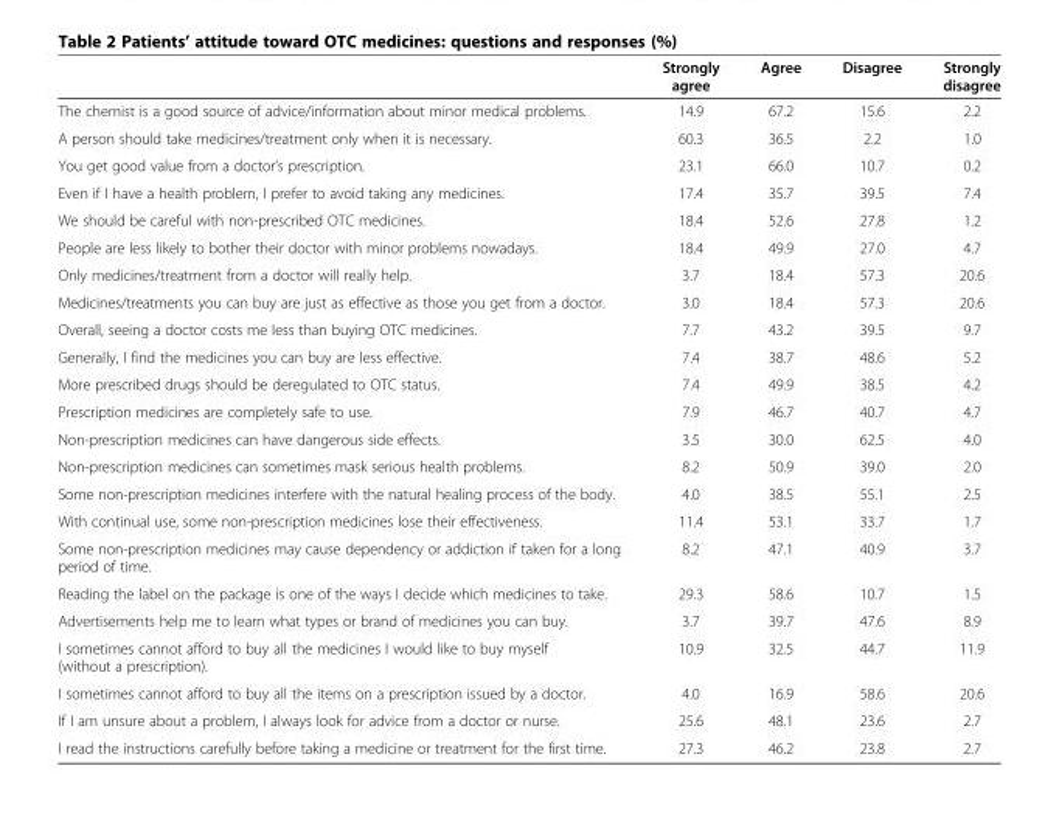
<table><thead><tr><td></td><td>Strongly agree</td><td>Agree</td><td>Disagree</td><td>Strongly disagree</td></tr></thead><tbody><tr><td>The chemist is a good source of advice/information about minor medical problems.</td><td>14.9</td><td>67.2</td><td>15.6</td><td>2.2</td></tr><tr><td>A person should take medicines/treatment only when it is necessary.</td><td>60.3</td><td>36.5</td><td>2.2</td><td>1.0</td></tr><tr><td>You get good value from a doctor’s prescription.</td><td>23.1</td><td>66.0</td><td>10.7</td><td>0.2</td></tr><tr><td>Even if I have a health problem, I prefer to avoid taking any medicines.</td><td>17.4</td><td>35.7</td><td>39.5</td><td>7.4</td></tr><tr><td>We should be careful with non-prescribed OTC medicines.</td><td>18.4</td><td>52.6</td><td>27.8</td><td>1.2</td></tr><tr><td>People are less likely to bother their doctor with minor problems nowadays.</td><td>18.4</td><td>49.9</td><td>27.0</td><td>4.7</td></tr><tr><td>Only medicines/treatment from a doctor will really help.</td><td>3.7</td><td>18.4</td><td>57.3</td><td>20.6</td></tr><tr><td>Medicines/treatments you can buy are just as effective as those you get from a doctor.</td><td>3.0</td><td>18.4</td><td>57.3</td><td>20.6</td></tr><tr><td>Overall, seeing a doctor costs me less than buying OTC medicines.</td><td>7.7</td><td>43.2</td><td>39.5</td><td>9.7</td></tr><tr><td>Generally, I find the medicines you can buy are less effective.</td><td>7.4</td><td>38.7</td><td>48.6</td><td>5.2</td></tr><tr><td>More prescribed drugs should be deregulated to OTC status.</td><td>7.4</td><td>49.9</td><td>38.5</td><td>4.2</td></tr><tr><td>Prescription medicines are completely safe to use.</td><td>7.9</td><td>46.7</td><td>40.7</td><td>4.7</td></tr><tr><td>Non-prescription medicines can have dangerous side effects.</td><td>3.5</td><td>30.0</td><td>62.5</td><td>4.0</td></tr><tr><td>Non-prescription medicines can sometimes mask serious health problems.</td><td>8.2</td><td>50.9</td><td>39.0</td><td>2.0</td></tr><tr><td>Some non-prescription medicines interfere with the natural healing process of the body.</td><td>4.0</td><td>38.5</td><td>55.1</td><td>2.5</td></tr><tr><td>With continual use, some non-prescription medicines lose their effectiveness.</td><td>11.4</td><td>53.1</td><td>33.7</td><td>1.7</td></tr><tr><td>Some non-prescription medicines may cause dependency or addiction if taken for a long period of time.</td><td>8.2</td><td>47.1</td><td>40.9</td><td>3.7</td></tr><tr><td>Reading the label on the package is one of the ways I decide which medicines to take.</td><td>29.3</td><td>58.6</td><td>10.7</td><td>1.5</td></tr><tr><td>Advertisements help me to learn what types or brand of medicines you can buy.</td><td>3.7</td><td>39.7</td><td>47.6</td><td>8.9</td></tr><tr><td>I sometimes cannot afford to buy all the medicines I would like to buy myself (without a prescription).</td><td>10.9</td><td>32.5</td><td>44.7</td><td>11.9</td></tr><tr><td>I sometimes cannot afford to buy all the items on a prescription issued by a doctor.</td><td>4.0</td><td>16.9</td><td>58.6</td><td>20.6</td></tr><tr><td>If I am unsure about a problem, I always look for advice from a doctor or nurse.</td><td>25.6</td><td>48.1</td><td>23.6</td><td>2.7</td></tr><tr><td>I read the instructions carefully before taking a medicine or treatment for the first time.</td><td>27.3</td><td>46.2</td><td>23.8</td><td>2.7</td></tr></tbody></table>